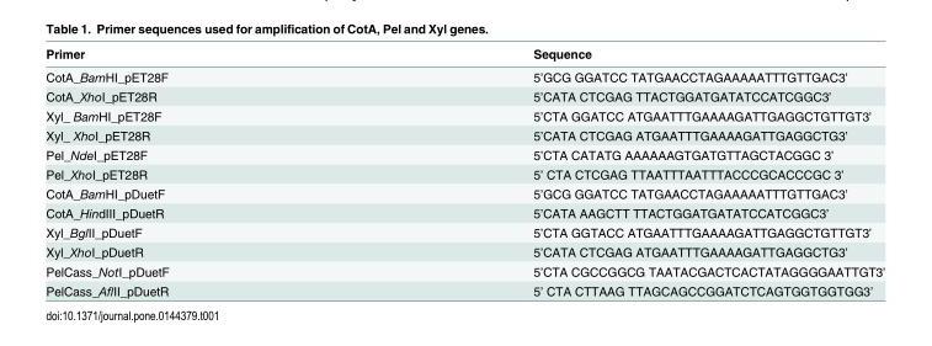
<table><thead><tr><td>Primer</td><td>Sequence</td></tr></thead><tbody><tr><td>CotA_BamHI_pET28F</td><td>5’GCG GGATCC TATGAACCTAGAAAAATTTGTTGAC3’</td></tr><tr><td>CotA_XhoI_pET28R</td><td>5’CATA CTCGAG TTACTGGATGATATCCATCGGC3’</td></tr><tr><td>Xyl_ BamHI_pET28F</td><td>5’CTA GGATCC ATGAATTTGAAAAGATTGAGGCTGTTGT3’</td></tr><tr><td>Xyl_ XhoI_pET28R</td><td>5’CATA CTCGAG ATGAATTTGAAAAGATTGAGGCTG3’</td></tr><tr><td>Pel_NdeI_pET28F</td><td>5’CTA CATATG AAAAAAGTGATGTTAGCTACGGC 3’</td></tr><tr><td>Pel_XhoI_pET28R</td><td>5’ CTA CTCGAG TTAATTTAATTTACCCGCACCCGC 3’</td></tr><tr><td>CotA_BamHI_pDuetF</td><td>5’GCG GGATCC TATGAACCTAGAAAAATTTGTTGAC3’</td></tr><tr><td>CotA_HindIII_pDuetR</td><td>5’CATA AAGCTT TTACTGGATGATATCCATCGGC3’</td></tr><tr><td>Xyl_BglII_pDuetF</td><td>5’CTA GGTACC ATGAATTTGAAAAGATTGAGGCTGTTGT3’</td></tr><tr><td>Xyl_XhoI_pDuetR</td><td>5’CATA CTCGAG ATGAATTTGAAAAGATTGAGGCTG3’</td></tr><tr><td>PelCass_NotI_pDuetF</td><td>5’CTA CGCCGGCG TAATACGACTCACTATAGGGGAATTGT3’</td></tr><tr><td>PelCass_AflII_pDuetR</td><td>5’ CTA CTTAAG TTAGCAGCCGGATCTCAGTGGTGGTGG3’</td></tr></tbody></table>